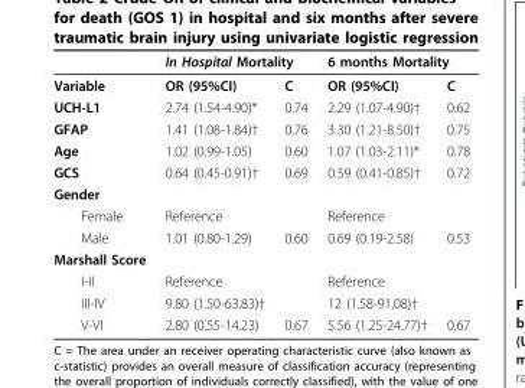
<table><thead><tr><td rowspan="2">Variable</td><td colspan="2">In Hospital Mortality</td><td colspan="2">6 months Mortality</td></tr><tr><td>OR (95%CI)</td><td>C</td><td>OR (95%CI)</td><td>C</td></tr></thead><tbody><tr><td>UCH-L1</td><td>2.74 (1.54-4.90)*</td><td>0.74</td><td>2.29 (1.07-4.90)†</td><td>0.62</td></tr><tr><td>GFAP</td><td>1.41 (1.08-1.84)†</td><td>0.76</td><td>3.30 (1.21-8.50)†</td><td>0.75</td></tr><tr><td>Age</td><td>1.02 (0.99-1.05)</td><td>0.60</td><td>1.07 (1.03-2.11)*</td><td>0.78</td></tr><tr><td>GCS</td><td>0.64 (0.45-0.91)†</td><td>0.69</td><td>0.59 (0.41-0.85)†</td><td>0.72</td></tr><tr><td colspan="5">Gender</td></tr><tr><td>Female</td><td>Reference</td><td></td><td>Reference</td><td></td></tr><tr><td>Male</td><td>1.01 (0.80-1.29)</td><td>0.60</td><td>0.69 (0.19-2.58)</td><td>0.53</td></tr><tr><td colspan="5">Marshall Score</td></tr><tr><td>I-II</td><td>Reference</td><td></td><td>Reference</td><td></td></tr><tr><td>III-IV</td><td>9.80 (1.50-63.83)†</td><td></td><td>12 (1.58-91.08)†</td><td></td></tr><tr><td>V-VI</td><td>2.80 (0.55-14.23)</td><td>0.67</td><td>5.56 (1.25-24.77)†</td><td>0.67</td></tr></tbody></table>